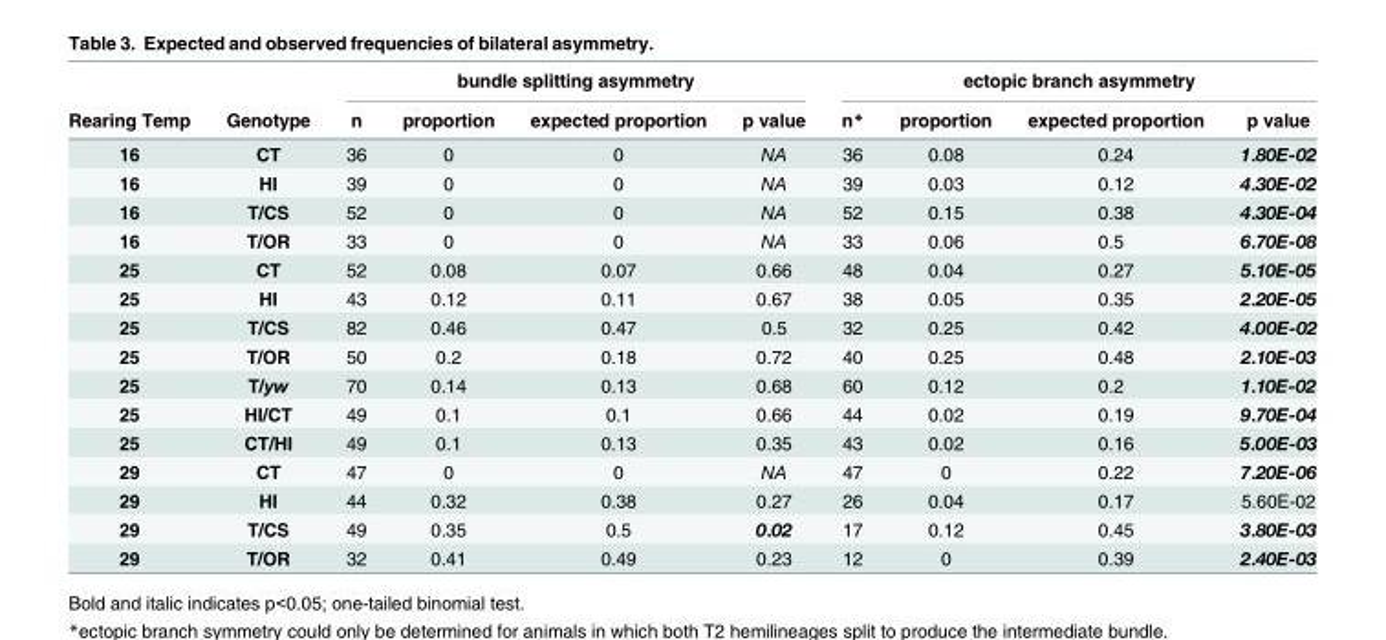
<table><thead><tr><td rowspan="2">Rearing Temp</td><td rowspan="2">Genotype</td><td colspan="4">bundle splitting asymmetry</td><td colspan="4">ectopic branch asymmetry</td></tr><tr><td>n</td><td>proportion</td><td>expected proportion</td><td>p value</td><td>n*</td><td>proportion</td><td>expected proportion</td><td>p value</td></tr></thead><tbody><tr><td>16</td><td>CT</td><td>36</td><td>0</td><td>0</td><td>NA</td><td>36</td><td>0.08</td><td>0.24</td><td>1.80E-02</td></tr><tr><td>16</td><td>HI</td><td>39</td><td>0</td><td>0</td><td>NA</td><td>39</td><td>0.03</td><td>0.12</td><td>4.30E-02</td></tr><tr><td>16</td><td>T/CS</td><td>52</td><td>0</td><td>0</td><td>NA</td><td>52</td><td>0.15</td><td>0.38</td><td>4.30E-04</td></tr><tr><td>16</td><td>T/OR</td><td>33</td><td>0</td><td>0</td><td>NA</td><td>33</td><td>0.06</td><td>0.5</td><td>6.70E-08</td></tr><tr><td>25</td><td>CT</td><td>52</td><td>0.08</td><td>0.07</td><td>0.66</td><td>48</td><td>0.04</td><td>0.27</td><td>5.10E-05</td></tr><tr><td>25</td><td>HI</td><td>43</td><td>0.12</td><td>0.11</td><td>0.67</td><td>38</td><td>0.05</td><td>0.35</td><td>2.20E-05</td></tr><tr><td>25</td><td>T/CS</td><td>82</td><td>0.46</td><td>0.47</td><td>0.5</td><td>32</td><td>0.25</td><td>0.42</td><td>4.00E-02</td></tr><tr><td>25</td><td>T/OR</td><td>50</td><td>0.2</td><td>0.18</td><td>0.72</td><td>40</td><td>0.25</td><td>0.48</td><td>2.10E-03</td></tr><tr><td>25</td><td>T/yw</td><td>70</td><td>0.14</td><td>0.13</td><td>0.68</td><td>60</td><td>0.12</td><td>0.2</td><td>1.10E-02</td></tr><tr><td>25</td><td>HI/CT</td><td>49</td><td>0.1</td><td>0.1</td><td>0.66</td><td>44</td><td>0.02</td><td>0.19</td><td>9.70E-04</td></tr><tr><td>25</td><td>CT/HI</td><td>49</td><td>0.1</td><td>0.13</td><td>0.35</td><td>43</td><td>0.02</td><td>0.16</td><td>5.00E-03</td></tr><tr><td>29</td><td>CT</td><td>47</td><td>0</td><td>0</td><td>NA</td><td>47</td><td>0</td><td>0.22</td><td>7.20E-06</td></tr><tr><td>29</td><td>HI</td><td>44</td><td>0.32</td><td>0.38</td><td>0.27</td><td>26</td><td>0.04</td><td>0.17</td><td>5.60E-02</td></tr><tr><td>29</td><td>T/CS</td><td>49</td><td>0.35</td><td>0.5</td><td>0.02</td><td>17</td><td>0.12</td><td>0.45</td><td>3.80E-03</td></tr><tr><td>29</td><td>T/OR</td><td>32</td><td>0.41</td><td>0.49</td><td>0.23</td><td>12</td><td>0</td><td>0.39</td><td>2.40E-03</td></tr></tbody></table>